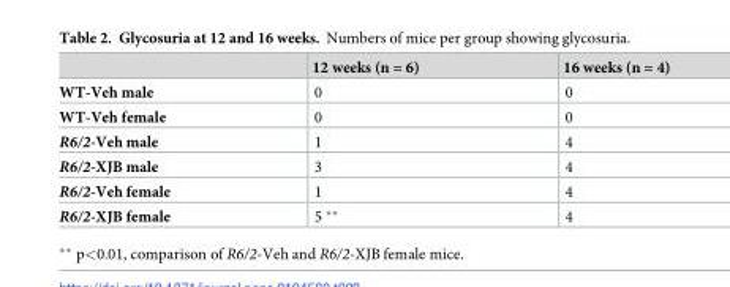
<table><thead><tr><td></td><td>12 weeks (n = 6)</td><td>16 weeks (n = 4)</td></tr></thead><tbody><tr><td>WT-Veh male</td><td>0</td><td>0</td></tr><tr><td>WT-Veh female</td><td>0</td><td>0</td></tr><tr><td>R6/2-Veh male</td><td>1</td><td>4</td></tr><tr><td>R6/2-XJB male</td><td>3</td><td>4</td></tr><tr><td>R6/2-Veh female</td><td>1</td><td>4</td></tr><tr><td>R6/2-XJB female</td><td>5 **</td><td>4</td></tr></tbody></table>